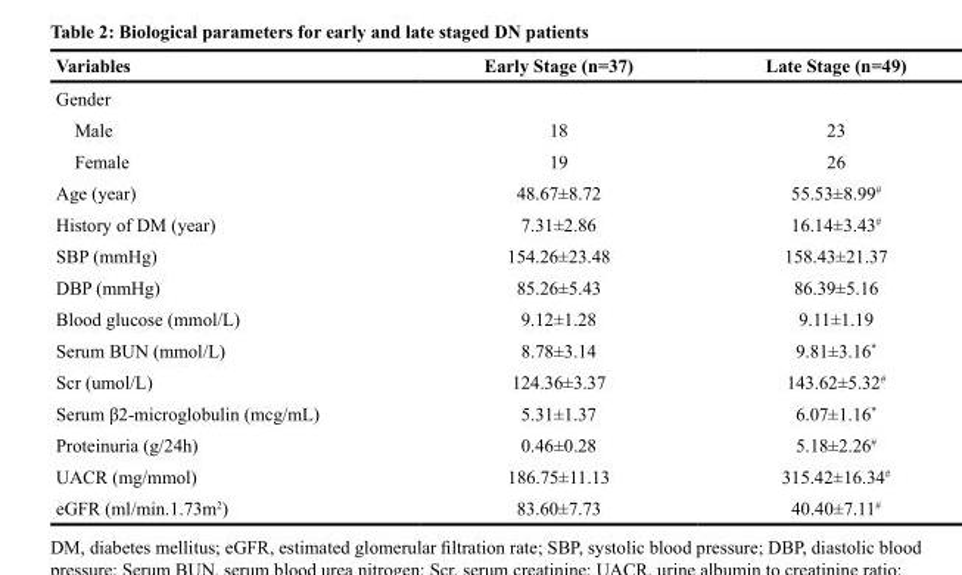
<table><thead><tr><td>Variables</td><td>Early Stage (n=37)</td><td>Late Stage (n=49)</td></tr></thead><tbody><tr><td colspan="3">Gender</td></tr><tr><td>Male</td><td>18</td><td>23</td></tr><tr><td>Female</td><td>19</td><td>26</td></tr><tr><td>Age (year)</td><td>48.67±8.72</td><td>55.53±8.99#</td></tr><tr><td>History of DM (year)</td><td>7.31±2.86</td><td>16.14±3.43#</td></tr><tr><td>SBP (mmHg)</td><td>154.26±23.48</td><td>158.43±21.37</td></tr><tr><td>DBP (mmHg)</td><td>85.26±5.43</td><td>86.39±5.16</td></tr><tr><td>Blood glucose (mmol/L)</td><td>9.12±1.28</td><td>9.11±1.19</td></tr><tr><td>Serum BUN (mmol/L)</td><td>8.78±3.14</td><td>9.81±3.16*</td></tr><tr><td>Scr (umol/L)</td><td>124.36±3.37</td><td>143.62±5.32#</td></tr><tr><td>Serum β2-microglobulin (mcg/mL)</td><td>5.31±1.37</td><td>6.07±1.16*</td></tr><tr><td>Proteinuria (g/24h)</td><td>0.46±0.28</td><td>5.18±2.26#</td></tr><tr><td>UACR (mg/mmol)</td><td>186.75±11.13</td><td>315.42±16.34#</td></tr><tr><td>eGFR (ml/min.1.73m<sup>2</sup>)</td><td>83.60±7.73</td><td>40.40±7.11#</td></tr></tbody></table>